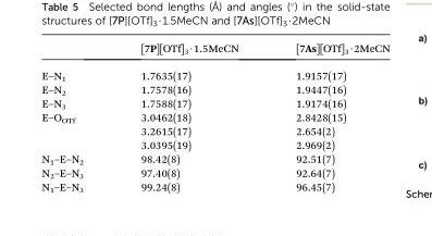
<table><thead><tr><td></td><td>[7P][OTf]<sub>3</sub>·1.5MeCN</td><td>[7As][OTf]<sub>3</sub>·2MeCN</td></tr></thead><tbody><tr><td>E–N<sub>1</sub></td><td>1.7635(17)</td><td>1.9157(17)</td></tr><tr><td>E–N<sub>2</sub></td><td>1.7578(16)</td><td>1.9447(16)</td></tr><tr><td>E–N<sub>3</sub></td><td>1.7588(17)</td><td>1.9174(16)</td></tr><tr><td rowspan="3">E–O<sub>OTf</sub></td><td>3.0462(18)</td><td>2.8428(15)</td></tr><tr><td>3.2615(17)</td><td>2.654(2)</td></tr><tr><td>3.0395(19)</td><td>2.969(2)</td></tr><tr><td>N<sub>1</sub>–E–N<sub>2</sub></td><td>98.42(8)</td><td>92.51(7)</td></tr><tr><td>N<sub>2</sub>–E–N<sub>3</sub></td><td>97.40(8)</td><td>92.64(7)</td></tr><tr><td>N<sub>1</sub>–E–N<sub>3</sub></td><td>99.24(8)</td><td>96.45(7)</td></tr></tbody></table>